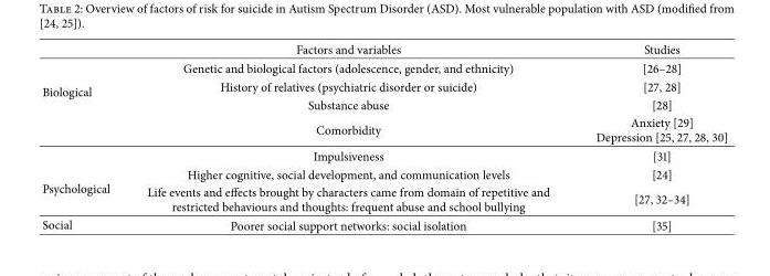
<table><thead><tr><td></td><td>Factors and variables</td><td>Studies</td></tr></thead><tbody><tr><td rowspan="4">Biological</td><td>Genetic and biological factors (adolescence, gender, and ethnicity)</td><td>[26–28]</td></tr><tr><td>History of relatives (psychiatric disorder or suicide)</td><td>[27, 28]</td></tr><tr><td>Substance abuse</td><td>[28]</td></tr><tr><td>Comorbidity</td><td>Anxiety [29] Depression [25, 27, 28, 30]</td></tr><tr><td rowspan="3">Psychological</td><td>Impulsiveness</td><td>[31]</td></tr><tr><td>Higher cognitive, social development, and communication levels</td><td>[24]</td></tr><tr><td>Life events and effects brought by characters came from domain of repetitive and restricted behaviours and thoughts: frequent abuse and school bullying</td><td>[27, 32–34]</td></tr><tr><td>Social</td><td>Poorer social support networks: social isolation</td><td>[35]</td></tr></tbody></table>